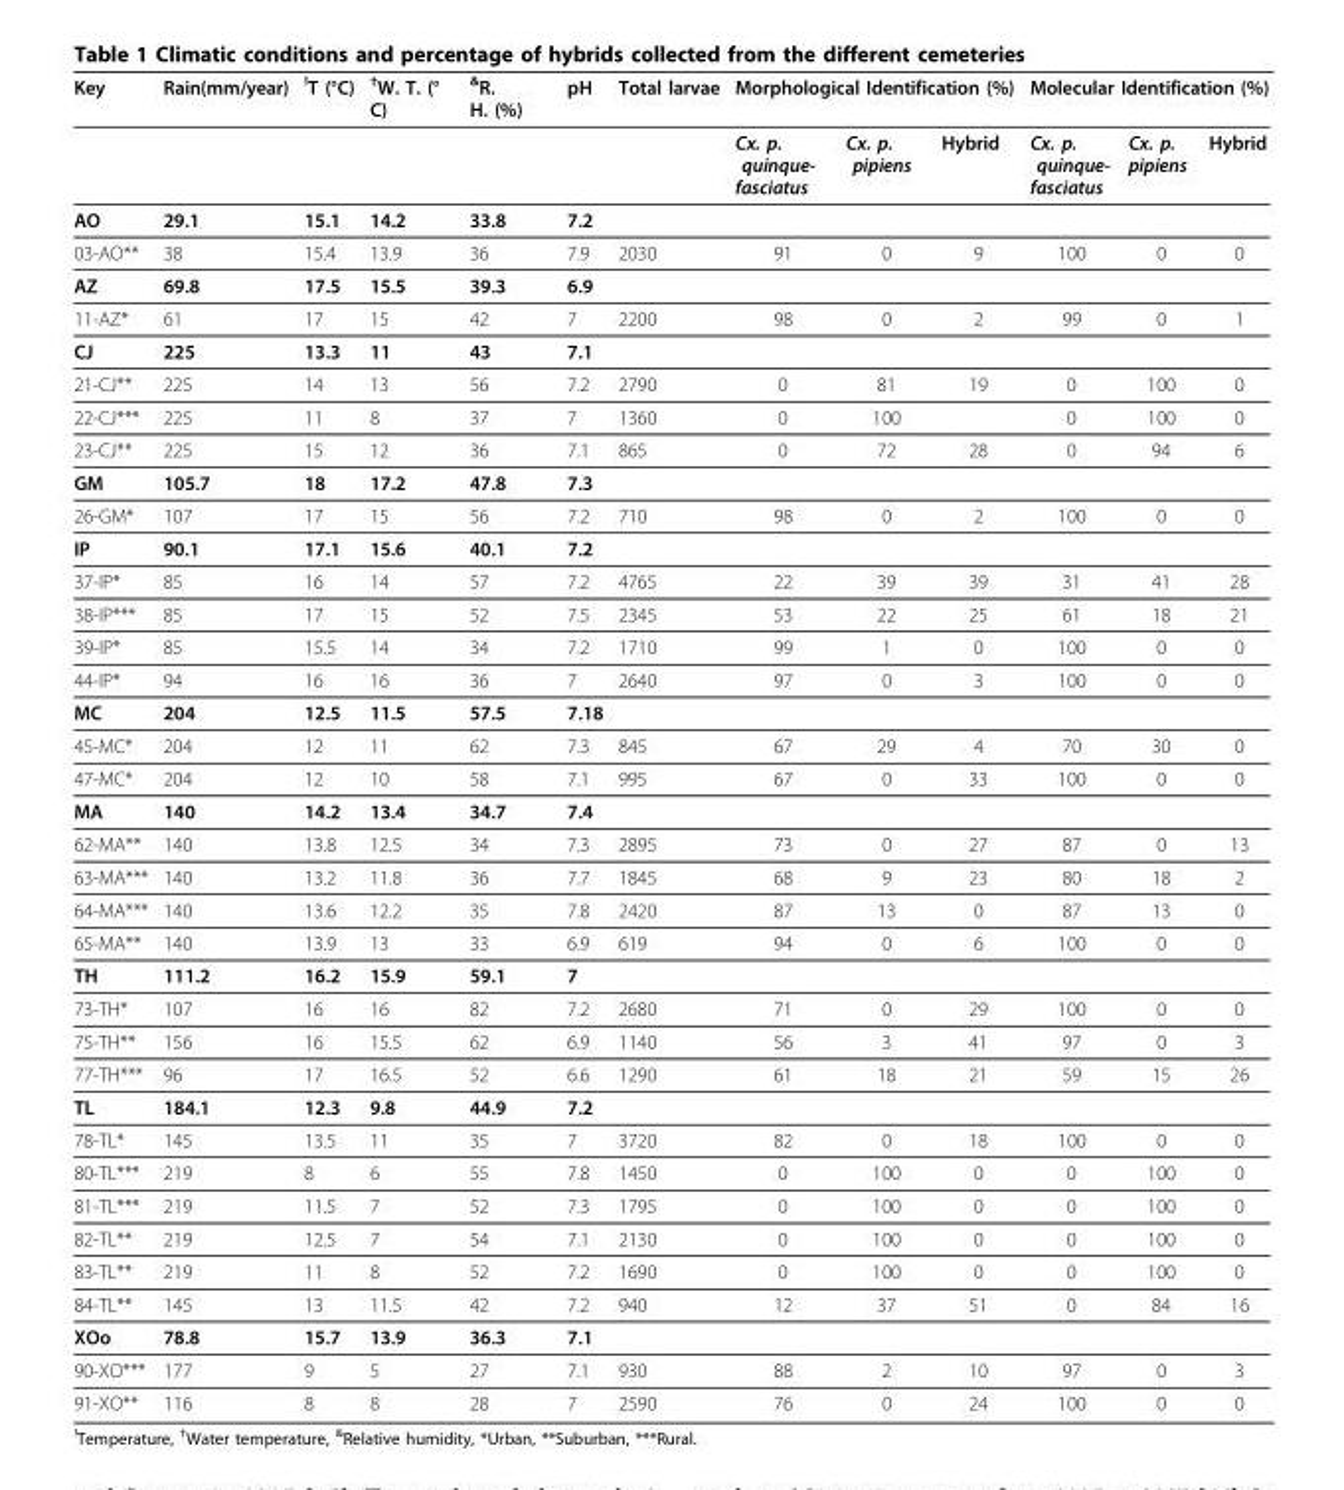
<table><thead><tr><td rowspan="2">Key</td><td rowspan="2">Rain(mm/year)</td><td rowspan="2"><sup>!</sup>T (°C)</td><td rowspan="2"><sup>†</sup>W. T. (° C)</td><td rowspan="2"><sup>&amp;</sup>R. H. (%)</td><td rowspan="2">pH</td><td rowspan="2">Total larvae</td><td colspan="3">Morphological Identification (%)</td><td colspan="3">Molecular Identification (%)</td></tr><tr><td>Cx. p. quinque- fasciatus</td><td>Cx. p. pipiens</td><td>Hybrid</td><td>Cx. p. quinque- fasciatus</td><td>Cx. p. pipiens</td><td>Hybrid</td></tr></thead><tbody><tr><td>AO</td><td>29.1</td><td>15.1</td><td>14.2</td><td>33.8</td><td>7.2</td><td></td><td></td><td></td><td></td><td></td><td></td><td></td></tr><tr><td>03-AO**</td><td>38</td><td>15.4</td><td>13.9</td><td>36</td><td>7.9</td><td>2030</td><td>91</td><td>0</td><td>9</td><td>100</td><td>0</td><td>0</td></tr><tr><td>AZ</td><td>69.8</td><td>17.5</td><td>15.5</td><td>39.3</td><td>6.9</td><td></td><td></td><td></td><td></td><td></td><td></td><td></td></tr><tr><td>11-AZ*</td><td>61</td><td>17</td><td>15</td><td>42</td><td>7</td><td>2200</td><td>98</td><td>0</td><td>2</td><td>99</td><td>0</td><td>1</td></tr><tr><td>CJ</td><td>225</td><td>13.3</td><td>11</td><td>43</td><td>7.1</td><td></td><td></td><td></td><td></td><td></td><td></td><td></td></tr><tr><td>21-CJ**</td><td>225</td><td>14</td><td>13</td><td>56</td><td>7.2</td><td>2790</td><td>0</td><td>81</td><td>19</td><td>0</td><td>100</td><td>0</td></tr><tr><td>22-CJ***</td><td>225</td><td>11</td><td>8</td><td>37</td><td>7</td><td>1360</td><td>0</td><td>100</td><td></td><td>0</td><td>100</td><td>0</td></tr><tr><td>23-CJ**</td><td>225</td><td>15</td><td>12</td><td>36</td><td>7.1</td><td>865</td><td>0</td><td>72</td><td>28</td><td>0</td><td>94</td><td>6</td></tr><tr><td>GM</td><td>105.7</td><td>18</td><td>17.2</td><td>47.8</td><td>7.3</td><td></td><td></td><td></td><td></td><td></td><td></td><td></td></tr><tr><td>26-GM*</td><td>107</td><td>17</td><td>15</td><td>56</td><td>7.2</td><td>710</td><td>98</td><td>0</td><td>2</td><td>100</td><td>0</td><td>0</td></tr><tr><td>IP</td><td>90.1</td><td>17.1</td><td>15.6</td><td>40.1</td><td>7.2</td><td></td><td></td><td></td><td></td><td></td><td></td><td></td></tr><tr><td>37-IP*</td><td>85</td><td>16</td><td>14</td><td>57</td><td>7.2</td><td>4765</td><td>22</td><td>39</td><td>39</td><td>31</td><td>41</td><td>28</td></tr><tr><td>38-IP***</td><td>85</td><td>17</td><td>15</td><td>52</td><td>7.5</td><td>2345</td><td>53</td><td>22</td><td>25</td><td>61</td><td>18</td><td>21</td></tr><tr><td>39-IP*</td><td>85</td><td>15.5</td><td>14</td><td>34</td><td>7.2</td><td>1710</td><td>99</td><td>1</td><td>0</td><td>100</td><td>0</td><td>0</td></tr><tr><td>44-IP*</td><td>94</td><td>16</td><td>16</td><td>36</td><td>7</td><td>2640</td><td>97</td><td>0</td><td>3</td><td>100</td><td>0</td><td>0</td></tr><tr><td>MC</td><td>204</td><td>12.5</td><td>11.5</td><td>57.5</td><td>7.18</td><td></td><td></td><td></td><td></td><td></td><td></td><td></td></tr><tr><td>45-MC*</td><td>204</td><td>12</td><td>11</td><td>62</td><td>7.3</td><td>845</td><td>67</td><td>29</td><td>4</td><td>70</td><td>30</td><td>0</td></tr><tr><td>47-MC*</td><td>204</td><td>12</td><td>10</td><td>58</td><td>7.1</td><td>995</td><td>67</td><td>0</td><td>33</td><td>100</td><td>0</td><td>0</td></tr><tr><td>MA</td><td>140</td><td>14.2</td><td>13.4</td><td>34.7</td><td>7.4</td><td></td><td></td><td></td><td></td><td></td><td></td><td></td></tr><tr><td>62-MA**</td><td>140</td><td>13.8</td><td>12.5</td><td>34</td><td>7.3</td><td>2895</td><td>73</td><td>0</td><td>27</td><td>87</td><td>0</td><td>13</td></tr><tr><td>63-MA***</td><td>140</td><td>13.2</td><td>11.8</td><td>36</td><td>7.7</td><td>1845</td><td>68</td><td>9</td><td>23</td><td>80</td><td>18</td><td>2</td></tr><tr><td>64-MA***</td><td>140</td><td>13.6</td><td>12.2</td><td>35</td><td>7.8</td><td>2420</td><td>87</td><td>13</td><td>0</td><td>87</td><td>13</td><td>0</td></tr><tr><td>65-MA**</td><td>140</td><td>13.9</td><td>13</td><td>33</td><td>6.9</td><td>619</td><td>94</td><td>0</td><td>6</td><td>100</td><td>0</td><td>0</td></tr><tr><td>TH</td><td>111.2</td><td>16.2</td><td>15.9</td><td>59.1</td><td>7</td><td></td><td></td><td></td><td></td><td></td><td></td><td></td></tr><tr><td>73-TH*</td><td>107</td><td>16</td><td>16</td><td>82</td><td>7.2</td><td>2680</td><td>71</td><td>0</td><td>29</td><td>100</td><td>0</td><td>0</td></tr><tr><td>75-TH**</td><td>156</td><td>16</td><td>15.5</td><td>62</td><td>6.9</td><td>1140</td><td>56</td><td>3</td><td>41</td><td>97</td><td>0</td><td>3</td></tr><tr><td>77-TH***</td><td>96</td><td>17</td><td>16.5</td><td>52</td><td>6.6</td><td>1290</td><td>61</td><td>18</td><td>21</td><td>59</td><td>15</td><td>26</td></tr><tr><td>TL</td><td>184.1</td><td>12.3</td><td>9.8</td><td>44.9</td><td>7.2</td><td></td><td></td><td></td><td></td><td></td><td></td><td></td></tr><tr><td>78-TL*</td><td>145</td><td>13.5</td><td>11</td><td>35</td><td>7</td><td>3720</td><td>82</td><td>0</td><td>18</td><td>100</td><td>0</td><td>0</td></tr><tr><td>80-TL***</td><td>219</td><td>8</td><td>6</td><td>55</td><td>7.8</td><td>1450</td><td>0</td><td>100</td><td>0</td><td>0</td><td>100</td><td>0</td></tr><tr><td>81-TL***</td><td>219</td><td>11.5</td><td>7</td><td>52</td><td>7.3</td><td>1795</td><td>0</td><td>100</td><td>0</td><td>0</td><td>100</td><td>0</td></tr><tr><td>82-TL**</td><td>219</td><td>12.5</td><td>7</td><td>54</td><td>7.1</td><td>2130</td><td>0</td><td>100</td><td>0</td><td>0</td><td>100</td><td>0</td></tr><tr><td>83-TL**</td><td>219</td><td>11</td><td>8</td><td>52</td><td>7.2</td><td>1690</td><td>0</td><td>100</td><td>0</td><td>0</td><td>100</td><td>0</td></tr><tr><td>84-TL**</td><td>145</td><td>13</td><td>11.5</td><td>42</td><td>7.2</td><td>940</td><td>12</td><td>37</td><td>51</td><td>0</td><td>84</td><td>16</td></tr><tr><td>XOo</td><td>78.8</td><td>15.7</td><td>13.9</td><td>36.3</td><td>7.1</td><td></td><td></td><td></td><td></td><td></td><td></td><td></td></tr><tr><td>90-XO***</td><td>177</td><td>9</td><td>5</td><td>27</td><td>7.1</td><td>930</td><td>88</td><td>2</td><td>10</td><td>97</td><td>0</td><td>3</td></tr><tr><td>91-XO**</td><td>116</td><td>8</td><td>8</td><td>28</td><td>7</td><td>2590</td><td>76</td><td>0</td><td>24</td><td>100</td><td>0</td><td>0</td></tr></tbody></table>